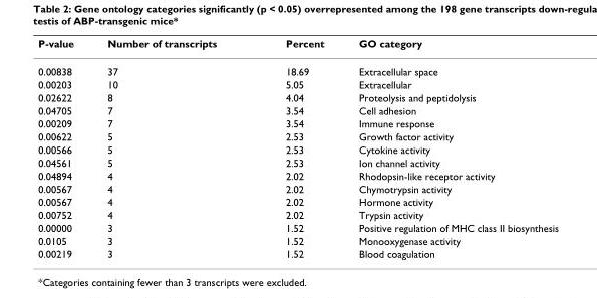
<table><thead><tr><td>P-value</td><td>Number of transcripts</td><td>Percent</td><td>GO category</td></tr></thead><tbody><tr><td>0.00838</td><td>37</td><td>18.69</td><td>Extracellular space</td></tr><tr><td>0.00203</td><td>10</td><td>5.05</td><td>Extracellular</td></tr><tr><td>0.02622</td><td>8</td><td>4.04</td><td>Proteolysis and peptidolysis</td></tr><tr><td>0.04705</td><td>7</td><td>3.54</td><td>Cell adhesion</td></tr><tr><td>0.00209</td><td>7</td><td>3.54</td><td>Immune response</td></tr><tr><td>0.00622</td><td>5</td><td>2.53</td><td>Growth factor activity</td></tr><tr><td>0.00566</td><td>5</td><td>2.53</td><td>Cytokine activity</td></tr><tr><td>0.04561</td><td>5</td><td>2.53</td><td>Ion channel activity</td></tr><tr><td>0.04894</td><td>4</td><td>2.02</td><td>Rhodopsin-like receptor activity</td></tr><tr><td>0.00567</td><td>4</td><td>2.02</td><td>Chymotrypsin activity</td></tr><tr><td>0.00567</td><td>4</td><td>2.02</td><td>Hormone activity</td></tr><tr><td>0.00752</td><td>4</td><td>2.02</td><td>Trypsin activity</td></tr><tr><td>0.00000</td><td>3</td><td>1.52</td><td>Positive regulation of MHC class II biosynthesis</td></tr><tr><td>0.0105</td><td>3</td><td>1.52</td><td>Monooxygenase activity</td></tr><tr><td>0.00219</td><td>3</td><td>1.52</td><td>Blood coagulation</td></tr></tbody></table>